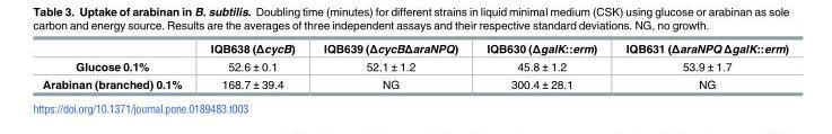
<table><thead><tr><td></td><td>IQB638 (ΔcycB)</td><td>IQB639 (ΔcycBΔaraNPQ)</td><td>IQB630 (ΔgalK::erm)</td><td>IQB631 (ΔaraNPQ ΔgalK::erm)</td></tr></thead><tbody><tr><td>Glucose 0.1%</td><td>52.6 ± 0.1</td><td>52.1 ± 1.2</td><td>45.8 ± 1.2</td><td>53.9 ± 1.7</td></tr><tr><td>Arabinan (branched) 0.1%</td><td>168.7 ± 39.4</td><td>NG</td><td>300.4 ± 28.1</td><td>NG</td></tr></tbody></table>